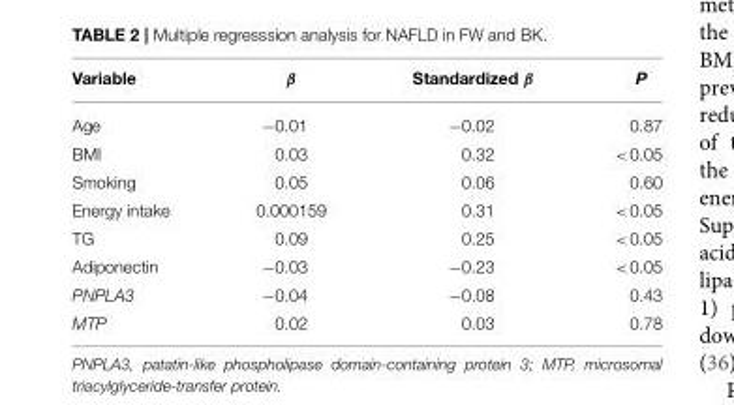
<table><thead><tr><td>Variable</td><td>β</td><td>Standardized β</td><td>P</td></tr></thead><tbody><tr><td>Age</td><td>−0.01</td><td>−0.02</td><td>0.87</td></tr><tr><td>BMI</td><td>0.03</td><td>0.32</td><td>&lt;0.05</td></tr><tr><td>Smoking</td><td>0.05</td><td>0.06</td><td>0.60</td></tr><tr><td>Energy intake</td><td>0.000159</td><td>0.31</td><td>&lt;0.05</td></tr><tr><td>TG</td><td>0.09</td><td>0.25</td><td>&lt;0.05</td></tr><tr><td>Adiponectin</td><td>−0.03</td><td>−0.23</td><td>&lt;0.05</td></tr><tr><td>PNPLA3</td><td>−0.04</td><td>−0.08</td><td>0.43</td></tr><tr><td>MTP</td><td>0.02</td><td>0.03</td><td>0.78</td></tr></tbody></table>